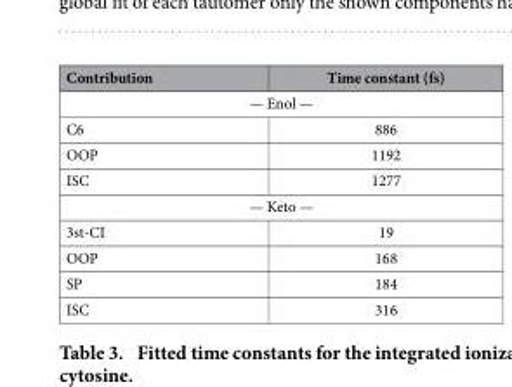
<table><thead><tr><td>Contribution</td><td>Time constant (fs)</td></tr></thead><tbody><tr><td colspan="2">— Enol —</td></tr><tr><td>C6</td><td>886</td></tr><tr><td>OOP</td><td>1192</td></tr><tr><td>ISC</td><td>1277</td></tr><tr><td colspan="2">— Keto —</td></tr><tr><td>3st-CI</td><td>19</td></tr><tr><td>OOP</td><td>168</td></tr><tr><td>SP</td><td>184</td></tr><tr><td>ISC</td><td>316</td></tr></tbody></table>